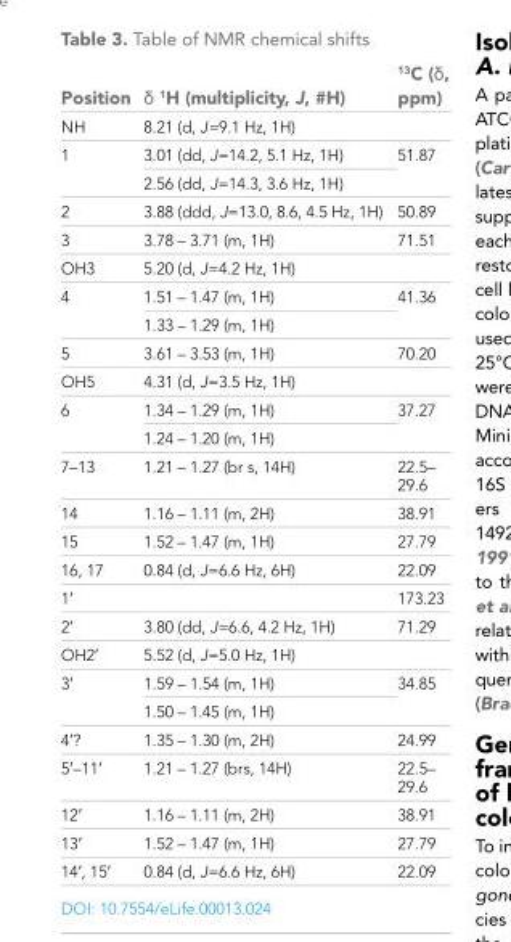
<table><thead><tr><td>Position</td><td>δ <sup>1</sup>H (multiplicity, J, #H)</td><td><sup>13</sup>C (δ, ppm)</td></tr></thead><tbody><tr><td>NH</td><td>8.21 (d, J=9.1 Hz, 1H)</td><td></td></tr><tr><td rowspan="2">1</td><td>3.01 (dd, J=14.2, 5.1 Hz, 1H)</td><td rowspan="2">51.87</td></tr><tr><td>2.56 (dd, J=14.3, 3.6 Hz, 1H)</td></tr><tr><td>2</td><td>3.88 (ddd, J=13.0, 8.6, 4.5 Hz, 1H)</td><td>50.89</td></tr><tr><td>3</td><td>3.78 – 3.71 (m, 1H)</td><td>71.51</td></tr><tr><td>OH3</td><td>5.20 (d, J=4.2 Hz, 1H)</td><td></td></tr><tr><td rowspan="2">4</td><td>1.51 – 1.47 (m, 1H)</td><td rowspan="2">41.36</td></tr><tr><td>1.33 – 1.29 (m, 1H)</td></tr><tr><td>5</td><td>3.61 – 3.53 (m, 1H)</td><td>70.20</td></tr><tr><td>OH5</td><td>4.31 (d, J=3.5 Hz, 1H)</td><td></td></tr><tr><td rowspan="2">6</td><td>1.34 – 1.29 (m, 1H)</td><td rowspan="2">37.27</td></tr><tr><td>1.24 – 1.20 (m, 1H)</td></tr><tr><td>7–13</td><td>1.21 – 1.27 (br s, 14H)</td><td>22.5– 29.6</td></tr><tr><td>14</td><td>1.16 – 1.11 (m, 2H)</td><td>38.91</td></tr><tr><td>15</td><td>1.52 – 1.47 (m, 1H)</td><td>27.79</td></tr><tr><td>16, 17</td><td>0.84 (d, J=6.6 Hz, 6H)</td><td>22.09</td></tr><tr><td>1′</td><td></td><td>173.23</td></tr><tr><td>2′</td><td>3.80 (dd, J=6.6, 4.2 Hz, 1H)</td><td>71.29</td></tr><tr><td>OH2′</td><td>5.52 (d, J=5.0 Hz, 1H)</td><td></td></tr><tr><td rowspan="2">3′</td><td>1.59 – 1.54 (m, 1H)</td><td rowspan="2">34.85</td></tr><tr><td>1.50 – 1.45 (m, 1H)</td></tr><tr><td>4′?</td><td>1.35 – 1.30 (m, 2H)</td><td>24.99</td></tr><tr><td>5′–11′</td><td>1.21 – 1.27 (brs, 14H)</td><td>22.5– 29.6</td></tr><tr><td>12′</td><td>1.16 – 1.11 (m, 2H)</td><td>38.91</td></tr><tr><td>13′</td><td>1.52 – 1.47 (m, 1H)</td><td>27.79</td></tr><tr><td>14′, 15′</td><td>0.84 (d, J=6.6 Hz, 6H)</td><td>22.09</td></tr></tbody></table>